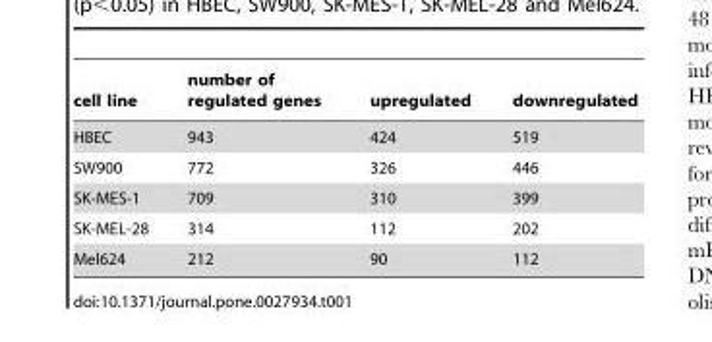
<table><thead><tr><td>cell line</td><td>number of regulated genes</td><td>upregulated</td><td>downregulated</td></tr></thead><tbody><tr><td>HBEC</td><td>943</td><td>424</td><td>519</td></tr><tr><td>SW900</td><td>772</td><td>326</td><td>446</td></tr><tr><td>SK-MES-1</td><td>709</td><td>310</td><td>399</td></tr><tr><td>SK-MEL-28</td><td>314</td><td>112</td><td>202</td></tr><tr><td>Mel624</td><td>212</td><td>90</td><td>112</td></tr></tbody></table>